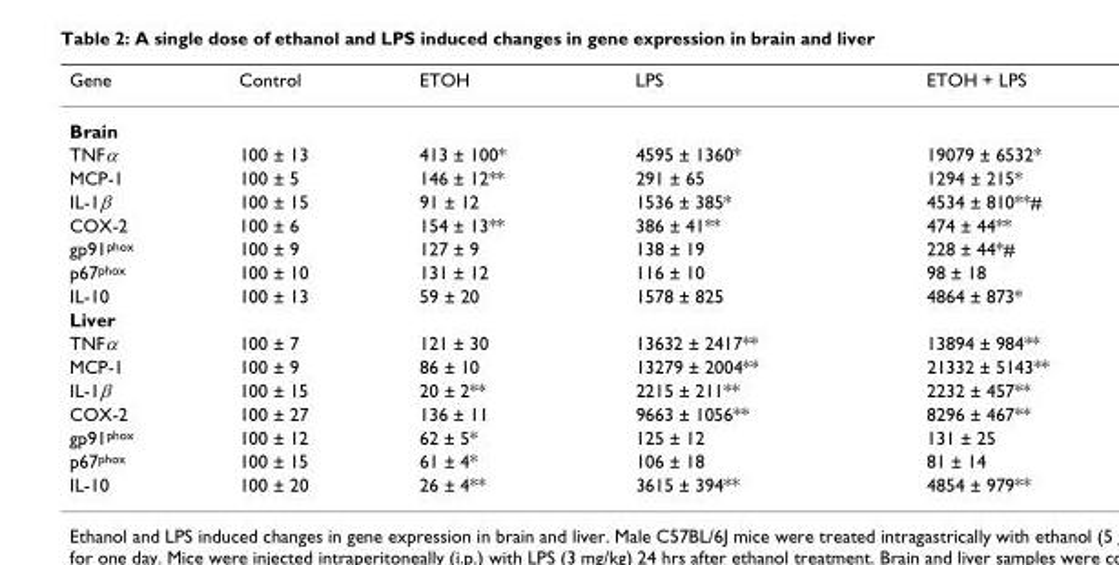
<table><thead><tr><td>Gene</td><td>Control</td><td>ETOH</td><td>LPS</td><td>ETOH + LPS</td></tr></thead><tbody><tr><td colspan="5">Brain</td></tr><tr><td>TNFα</td><td>100 ± 13</td><td>413 ± 100*</td><td>4595 ± 1360*</td><td>19079 ± 6532*</td></tr><tr><td>MCP-1</td><td>100 ± 5</td><td>146 ± 12**</td><td>291 ± 65</td><td>1294 ± 215*</td></tr><tr><td>IL-1β</td><td>100 ± 15</td><td>91 ± 12</td><td>1536 ± 385*</td><td>4534 ± 810**#</td></tr><tr><td>COX-2</td><td>100 ± 6</td><td>154 ± 13**</td><td>386 ± 41**</td><td>474 ± 44**</td></tr><tr><td>gp91<sup>phox</sup></td><td>100 ± 9</td><td>127 ± 9</td><td>138 ± 19</td><td>228 ± 44*#</td></tr><tr><td>p67<sup>phox</sup></td><td>100 ± 10</td><td>131 ± 12</td><td>116 ± 10</td><td>98 ± 18</td></tr><tr><td>IL-10</td><td>100 ± 13</td><td>59 ± 20</td><td>1578 ± 825</td><td>4864 ± 873*</td></tr><tr><td colspan="5">Liver</td></tr><tr><td>TNFα</td><td>100 ± 7</td><td>121 ± 30</td><td>13632 ± 2417**</td><td>13894 ± 984**</td></tr><tr><td>MCP-1</td><td>100 ± 9</td><td>86 ± 10</td><td>13279 ± 2004**</td><td>21332 ± 5143**</td></tr><tr><td>IL-1β</td><td>100 ± 15</td><td>20 ± 2**</td><td>2215 ± 211**</td><td>2232 ± 457**</td></tr><tr><td>COX-2</td><td>100 ± 27</td><td>136 ± 11</td><td>9663 ± 1056**</td><td>8296 ± 467**</td></tr><tr><td>gp91<sup>phox</sup></td><td>100 ± 12</td><td>62 ± 5*</td><td>125 ± 12</td><td>131 ± 25</td></tr><tr><td>p67<sup>phox</sup></td><td>100 ± 15</td><td>61 ± 4*</td><td>106 ± 18</td><td>81 ± 14</td></tr><tr><td>IL-10</td><td>100 ± 20</td><td>26 ± 4**</td><td>3615 ± 394**</td><td>4854 ± 979**</td></tr></tbody></table>